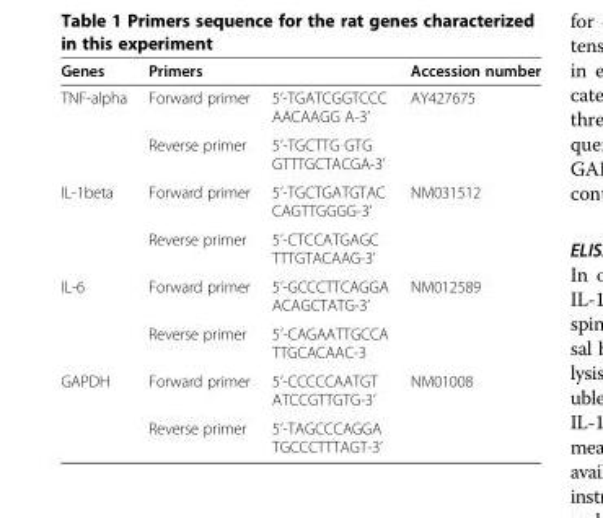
<table><thead><tr><td>Genes</td><td>Primers</td><td></td><td>Accession number</td></tr></thead><tbody><tr><td rowspan="2">TNF-alpha</td><td>Forward primer</td><td>5’-TGATCGGTCCC AACAAGG A-3’</td><td>AY427675</td></tr><tr><td>Reverse primer</td><td>5’-TGCTTG GTG GTTTGCTACGA-3’</td><td></td></tr><tr><td rowspan="2">IL-1beta</td><td>Forward primer</td><td>5’-TGCTGATGTAC CAGTTGGGG-3’</td><td>NM031512</td></tr><tr><td>Reverse primer</td><td>5’-CTCCATGAGC TTTGTACAAG-3’</td><td></td></tr><tr><td rowspan="2">IL-6</td><td>Forward primer</td><td>5’-GCCCTTCAGGA ACAGCTATG-3’</td><td>NM012589</td></tr><tr><td>Reverse primer</td><td>5’-CAGAATTGCCA TTGCACAAC-3</td><td></td></tr><tr><td rowspan="2">GAPDH</td><td>Forward primer</td><td>5’-CCCCCAATGT ATCCGTTGTG-3’</td><td>NM01008</td></tr><tr><td>Reverse primer</td><td>5’-TAGCCCAGGA TGCCCTTTAGT-3’</td><td></td></tr></tbody></table>